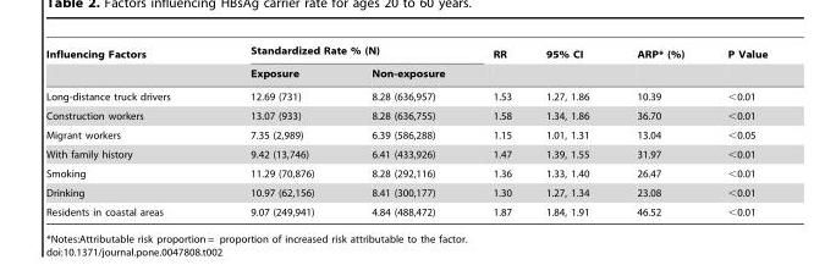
<table><thead><tr><td rowspan="2">Influencing Factors</td><td colspan="2">Standardized Rate % (N)</td><td rowspan="2">RR</td><td rowspan="2">95% CI</td><td rowspan="2">ARP* (%)</td><td rowspan="2">P Value</td></tr><tr><td>Exposure</td><td>Non-exposure</td></tr></thead><tbody><tr><td>Long-distance truck drivers</td><td>12.69 (731)</td><td>8.28 (636,957)</td><td>1.53</td><td>1.27, 1.86</td><td>10.39</td><td>&lt;0.01</td></tr><tr><td>Construction workers</td><td>13.07 (933)</td><td>8.28 (636,755)</td><td>1.58</td><td>1.34, 1.86</td><td>36.70</td><td>&lt;0.01</td></tr><tr><td>Migrant workers</td><td>7.35 (2,989)</td><td>6.39 (586,288)</td><td>1.15</td><td>1.01, 1.31</td><td>13.04</td><td>&lt;0.05</td></tr><tr><td>With family history</td><td>9.42 (13,746)</td><td>6.41 (433,926)</td><td>1.47</td><td>1.39, 1.55</td><td>31.97</td><td>&lt;0.01</td></tr><tr><td>Smoking</td><td>11.29 (70,876)</td><td>8.28 (292,116)</td><td>1.36</td><td>1.33, 1.40</td><td>26.47</td><td>&lt;0.01</td></tr><tr><td>Drinking</td><td>10.97 (62,156)</td><td>8.41 (300,177)</td><td>1.30</td><td>1.27, 1.34</td><td>23.08</td><td>&lt;0.01</td></tr><tr><td>Residents in coastal areas</td><td>9.07 (249,941)</td><td>4.84 (488,472)</td><td>1.87</td><td>1.84, 1.91</td><td>46.52</td><td>&lt;0.01</td></tr></tbody></table>